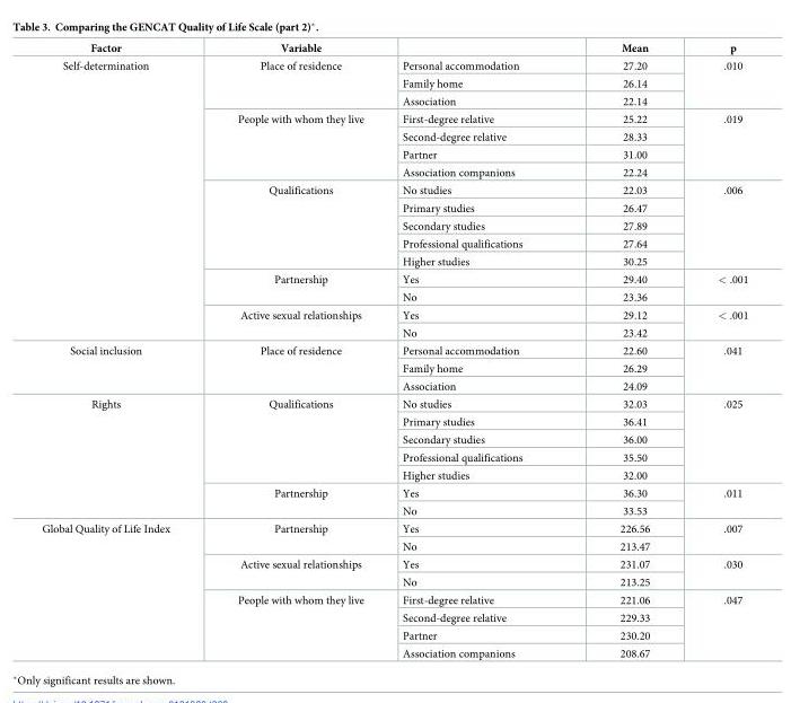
<table><thead><tr><td>Factor</td><td>Variable</td><td></td><td>Mean</td><td>p</td></tr></thead><tbody><tr><td rowspan="16">Self-determination</td><td rowspan="3">Place of residence</td><td>Personal accommodation</td><td>27.20</td><td rowspan="3">.010</td></tr><tr><td>Family home</td><td>26.14</td></tr><tr><td>Association</td><td>22.14</td></tr><tr><td rowspan="4">People with whom they live</td><td>First-degree relative</td><td>25.22</td><td rowspan="4">.019</td></tr><tr><td>Second-degree relative</td><td>28.33</td></tr><tr><td>Partner</td><td>31.00</td></tr><tr><td>Association companions</td><td>22.24</td></tr><tr><td rowspan="5">Qualifications</td><td>No studies</td><td>22.03</td><td rowspan="5">.006</td></tr><tr><td>Primary studies</td><td>26.47</td></tr><tr><td>Secondary studies</td><td>27.89</td></tr><tr><td>Professional qualifications</td><td>27.64</td></tr><tr><td>Higher studies</td><td>30.25</td></tr><tr><td rowspan="2">Partnership</td><td>Yes</td><td>29.40</td><td rowspan="2">&lt; .001</td></tr><tr><td>No</td><td>23.36</td></tr><tr><td rowspan="2">Active sexual relationships</td><td>Yes</td><td>29.12</td><td rowspan="2">&lt; .001</td></tr><tr><td>No</td><td>23.42</td></tr><tr><td rowspan="3">Social inclusion</td><td rowspan="3">Place of residence</td><td>Personal accommodation</td><td>22.60</td><td rowspan="3">.041</td></tr><tr><td>Family home</td><td>26.29</td></tr><tr><td>Association</td><td>24.09</td></tr><tr><td rowspan="7">Rights</td><td rowspan="5">Qualifications</td><td>No studies</td><td>32.03</td><td rowspan="5">.025</td></tr><tr><td>Primary studies</td><td>36.41</td></tr><tr><td>Secondary studies</td><td>36.00</td></tr><tr><td>Professional qualifications</td><td>35.50</td></tr><tr><td>Higher studies</td><td>32.00</td></tr><tr><td rowspan="2">Partnership</td><td>Yes</td><td>36.30</td><td rowspan="2">.011</td></tr><tr><td>No</td><td>33.53</td></tr><tr><td rowspan="8">Global Quality of Life Index</td><td rowspan="2">Partnership</td><td>Yes</td><td>226.56</td><td rowspan="2">.007</td></tr><tr><td>No</td><td>213.47</td></tr><tr><td rowspan="2">Active sexual relationships</td><td>Yes</td><td>231.07</td><td rowspan="2">.030</td></tr><tr><td>No</td><td>213.25</td></tr><tr><td rowspan="4">People with whom they live</td><td>First-degree relative</td><td>221.06</td><td rowspan="4">.047</td></tr><tr><td>Second-degree relative</td><td>229.33</td></tr><tr><td>Partner</td><td>230.20</td></tr><tr><td>Association companions</td><td>208.67</td></tr></tbody></table>